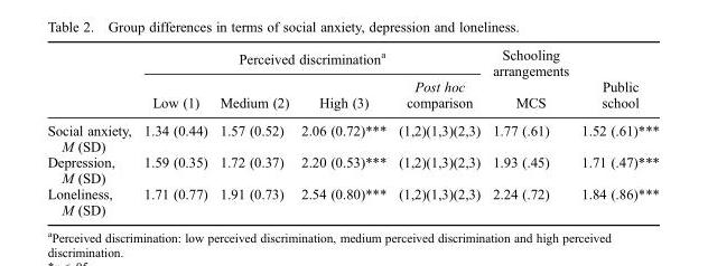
<table><thead><tr><td rowspan="2"></td><td colspan="4">Perceived discrimination<sup>a</sup></td><td rowspan="2">Schooling arrangements MCS</td><td rowspan="2">Public school</td></tr><tr><td>Low (1)</td><td>Medium (2)</td><td>High (3)</td><td>Post hoc comparison</td></tr></thead><tbody><tr><td>Social anxiety, M (SD)</td><td>1.34 (0.44)</td><td>1.57 (0.52)</td><td>2.06 (0.72)***</td><td>(1,2)(1,3)(2,3)</td><td>1.77 (.61)</td><td>1.52 (.61)***</td></tr><tr><td>Depression, M (SD)</td><td>1.59 (0.35)</td><td>1.72 (0.37)</td><td>2.20 (0.53)***</td><td>(1,2)(1,3)(2,3)</td><td>1.93 (.45)</td><td>1.71 (.47)***</td></tr><tr><td>Loneliness, M (SD)</td><td>1.71 (0.77)</td><td>1.91 (0.73)</td><td>2.54 (0.80)***</td><td>(1,2)(1,3)(2,3)</td><td>2.24 (.72)</td><td>1.84 (.86)***</td></tr></tbody></table>